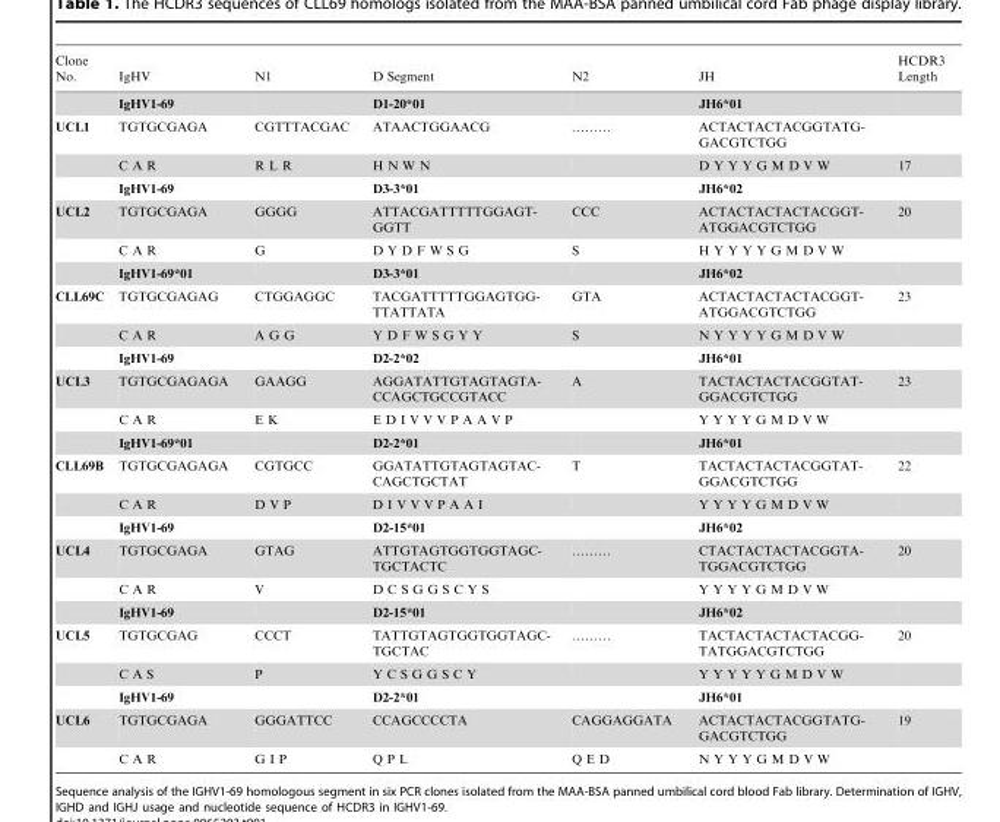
<table><thead><tr><td>Clone No.</td><td>IgHV</td><td>N1</td><td>D Segment</td><td>N2</td><td>JH</td><td>HCDR3 Length</td></tr></thead><tbody><tr><td></td><td>IgHV1-69</td><td></td><td>D1-20*01</td><td></td><td>JH6*01</td><td></td></tr><tr><td rowspan="3">UCL1</td><td>TGTGCGAGA</td><td>CGTTTACGAC</td><td>ATAACTGGAACG</td><td>………</td><td>ACTACTACTACGGTATG- GACGTCTGG</td><td></td></tr><tr><td>C A R</td><td>R L R</td><td>H N W N</td><td></td><td>D Y Y Y G M D V W</td><td>17</td></tr><tr><td>IgHV1-69</td><td></td><td>D3-3*01</td><td></td><td>JH6*02</td><td></td></tr><tr><td rowspan="3">UCL2</td><td>TGTGCGAGA</td><td>GGGG</td><td>ATTACGATTTTTGGAGT- GGTT</td><td>CCC</td><td>ACTACTACTACTACGGT- ATGGACGTCTGG</td><td>20</td></tr><tr><td>C A R</td><td>G</td><td>D Y D F W S G</td><td>S</td><td>H Y Y Y Y G M D V W</td><td></td></tr><tr><td>IgHV1-69*01</td><td></td><td>D3-3*01</td><td></td><td>JH6*02</td><td></td></tr><tr><td rowspan="3">CLL69C</td><td>TGTGCGAGAG</td><td>CTGGAGGC</td><td>TACGATTTTTGGAGTGG- TTATTATA</td><td>GTA</td><td>ACTACTACTACTACGGT- ATGGACGTCTGG</td><td>23</td></tr><tr><td>C A R</td><td>A G G</td><td>Y D F W S G Y Y</td><td>S</td><td>N Y Y Y Y G M D V W</td><td></td></tr><tr><td>IgHV1-69</td><td></td><td>D2-2*02</td><td></td><td>JH6*01</td><td></td></tr><tr><td rowspan="3">UCL3</td><td>TGTGCGAGAGA</td><td>GAAGG</td><td>AGGATATTGTAGTAGTA- CCAGCTGCCGTACC</td><td>A</td><td>TACTACTACTACGGTAT- GGACGTCTGG</td><td>23</td></tr><tr><td>C A R</td><td>E K</td><td>E D I V V V P A A V P</td><td></td><td>Y Y Y Y G M D V W</td><td></td></tr><tr><td>IgHV1-69*01</td><td></td><td>D2-2*01</td><td></td><td>JH6*01</td><td></td></tr><tr><td rowspan="3">CLL69B</td><td>TGTGCGAGAGA</td><td>CGTGCC</td><td>GGATATTGTAGTAGTAC- CAGCTGCTAT</td><td>T</td><td>TACTACTACTACGGTAT- GGACGTCTGG</td><td>22</td></tr><tr><td>C A R</td><td>D V P</td><td>D I V V V P A A I</td><td></td><td>Y Y Y Y G M D V W</td><td></td></tr><tr><td>IgHV1-69</td><td></td><td>D2-15*01</td><td></td><td>JH6*02</td><td></td></tr><tr><td rowspan="3">UCL4</td><td>TGTGCGAGA</td><td>GTAG</td><td>ATTGTAGTGGTGGTAGC- TGCTACTC</td><td>………</td><td>CTACTACTACTACGGTA- TGGACGTCTGG</td><td>20</td></tr><tr><td>C A R</td><td>V</td><td>D C S G G S C Y S</td><td></td><td>Y Y Y Y G M D V W</td><td></td></tr><tr><td>IgHV1-69</td><td></td><td>D2-15*01</td><td></td><td>JH6*02</td><td></td></tr><tr><td rowspan="3">UCL5</td><td>TGTGCGAG</td><td>CCCT</td><td>TATTGTAGTGGTGGTAGC- TGCTAC</td><td>………</td><td>TACTACTACTACTACGG- TATGGACGTCTGG</td><td>20</td></tr><tr><td>C A S</td><td>P</td><td>Y C S G G S C Y</td><td></td><td>Y Y Y Y Y G M D V W</td><td></td></tr><tr><td>IgHV1-69</td><td></td><td>D2-2*01</td><td></td><td>JH6*01</td><td></td></tr><tr><td rowspan="2">UCL6</td><td>TGTGCGAGA</td><td>GGGATTCC</td><td>CCAGCCCCTA</td><td>CAGGAGGATA</td><td>ACTACTACTACGGTATG- GACGTCTGG</td><td>19</td></tr><tr><td>C A R</td><td>G I P</td><td>Q P L</td><td>Q E D</td><td>N Y Y Y G M D V W</td><td></td></tr></tbody></table>